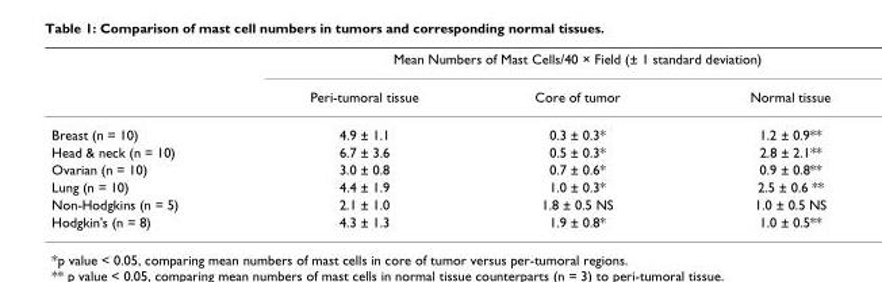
<table><thead><tr><td rowspan="2"></td><td colspan="3">Mean Numbers of Mast Cells/40 × Field (± 1 standard deviation)</td></tr><tr><td>Peri-tumoral tissue</td><td>Core of tumor</td><td>Normal tissue</td></tr></thead><tbody><tr><td>Breast (n = 10)</td><td>4.9 ± 1.1</td><td>0.3 ± 0.3*</td><td>1.2 ± 0.9**</td></tr><tr><td>Head &amp; neck (n = 10)</td><td>6.7 ± 3.6</td><td>0.5 ± 0.3*</td><td>2.8 ± 2.1**</td></tr><tr><td>Ovarian (n = 10)</td><td>3.0 ± 0.8</td><td>0.7 ± 0.6*</td><td>0.9 ± 0.8**</td></tr><tr><td>Lung (n = 10)</td><td>4.4 ± 1.9</td><td>1.0 ± 0.3*</td><td>2.5 ± 0.6 **</td></tr><tr><td>Non-Hodgkins (n = 5)</td><td>2.1 ± 1.0</td><td>1.8 ± 0.5 NS</td><td>1.0 ± 0.5 NS</td></tr><tr><td>Hodgkin&#x27;s (n = 8)</td><td>4.3 ± 1.3</td><td>1.9 ± 0.8*</td><td>1.0 ± 0.5**</td></tr></tbody></table>